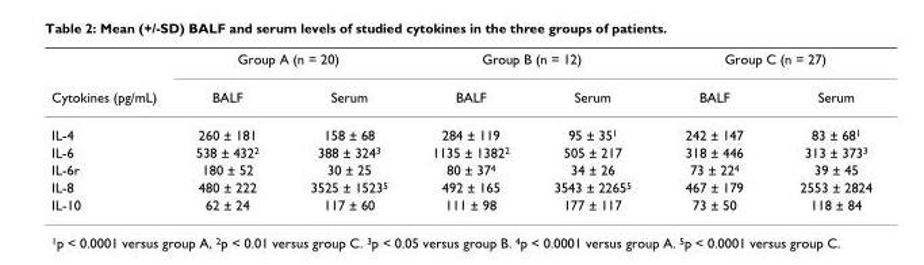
<table><thead><tr><td rowspan="2">Cytokines (pg/mL)</td><td colspan="2">Group A (n = 20)</td><td colspan="2">Group B (n = 12)</td><td colspan="2">Group C (n = 27)</td></tr><tr><td>BALF</td><td>Serum</td><td>BALF</td><td>Serum</td><td>BALF</td><td>Serum</td></tr></thead><tbody><tr><td>IL-4</td><td>260 ± 181</td><td>158 ± 68</td><td>284 ± 119</td><td>95 ± 35<sup>1</sup></td><td>242 ± 147</td><td>83 ± 68<sup>1</sup></td></tr><tr><td>IL-6</td><td>538 ± 432<sup>2</sup></td><td>388 ± 324<sup>3</sup></td><td>1135 ± 1382<sup>2</sup></td><td>505 ± 217</td><td>318 ± 446</td><td>313 ± 373<sup>3</sup></td></tr><tr><td>IL-6r</td><td>180 ± 52</td><td>30 ± 25</td><td>80 ± 37<sup>4</sup></td><td>34 ± 26</td><td>73 ± 22<sup>4</sup></td><td>39 ± 45</td></tr><tr><td>IL-8</td><td>480 ± 222</td><td>3525 ± 1523<sup>5</sup></td><td>492 ± 165</td><td>3543 ± 2265<sup>5</sup></td><td>467 ± 179</td><td>2553 ± 2824</td></tr><tr><td>IL-10</td><td>62 ± 24</td><td>117 ± 60</td><td>111 ± 98</td><td>177 ± 117</td><td>73 ± 50</td><td>118 ± 84</td></tr></tbody></table>